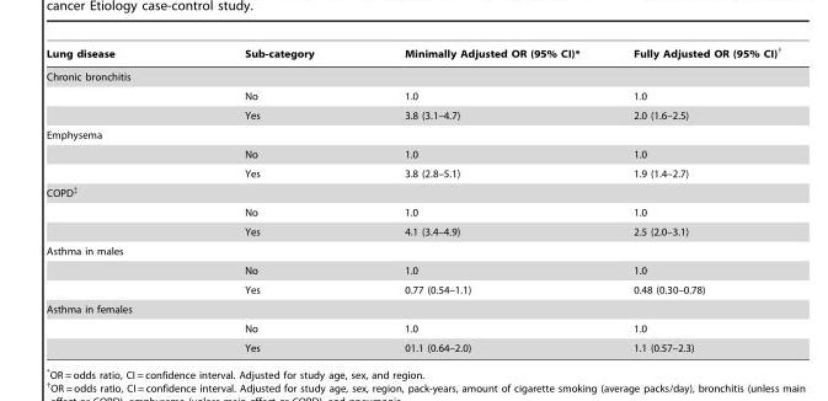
<table><thead><tr><td>Lung disease</td><td>Sub-category</td><td>Minimally Adjusted OR (95% CI)*</td><td>Fully Adjusted OR (95% CI)†</td></tr></thead><tbody><tr><td colspan="4">Chronic bronchitis</td></tr><tr><td></td><td>No</td><td>1.0</td><td>1.0</td></tr><tr><td></td><td>Yes</td><td>3.8 (3.1–4.7)</td><td>2.0 (1.6–2.5)</td></tr><tr><td colspan="4">Emphysema</td></tr><tr><td></td><td>No</td><td>1.0</td><td>1.0</td></tr><tr><td></td><td>Yes</td><td>3.8 (2.8–5.1)</td><td>1.9 (1.4–2.7)</td></tr><tr><td colspan="4">COPD‡</td></tr><tr><td></td><td>No</td><td>1.0</td><td>1.0</td></tr><tr><td></td><td>Yes</td><td>4.1 (3.4–4.9)</td><td>2.5 (2.0–3.1)</td></tr><tr><td colspan="4">Asthma in males</td></tr><tr><td></td><td>No</td><td>1.0</td><td>1.0</td></tr><tr><td></td><td>Yes</td><td>0.77 (0.54–1.1)</td><td>0.48 (0.30–0.78)</td></tr><tr><td colspan="4">Asthma in females</td></tr><tr><td></td><td>No</td><td>1.0</td><td>1.0</td></tr><tr><td></td><td>Yes</td><td>01.1 (0.64–2.0)</td><td>1.1 (0.57–2.3)</td></tr></tbody></table>